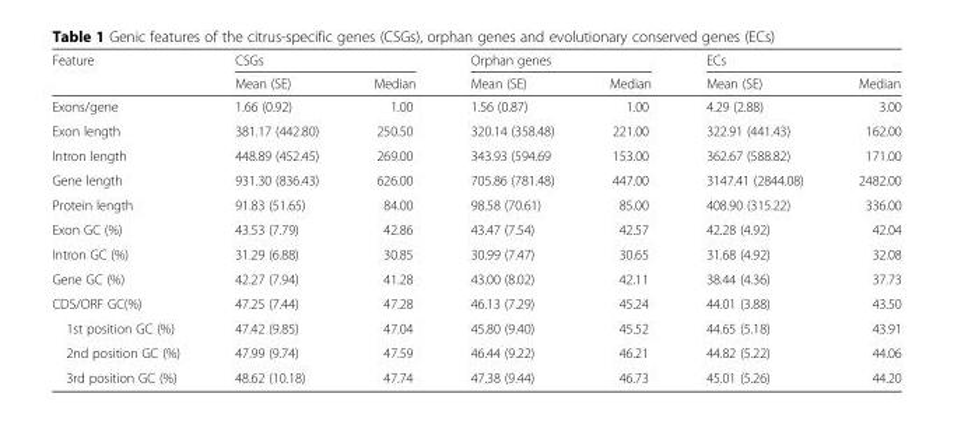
<table><thead><tr><td rowspan="2">Feature</td><td colspan="2">CSGs</td><td colspan="2">Orphan genes</td><td colspan="2">ECs</td></tr><tr><td>Mean (SE)</td><td>Median</td><td>Mean (SE)</td><td>Median</td><td>Mean (SE)</td><td>Median</td></tr></thead><tbody><tr><td>Exons/gene</td><td>1.66 (0.92)</td><td>1.00</td><td>1.56 (0.87)</td><td>1.00</td><td>4.29 (2.88)</td><td>3.00</td></tr><tr><td>Exon length</td><td>381.17 (442.80)</td><td>250.50</td><td>320.14 (358.48)</td><td>221.00</td><td>322.91 (441.43)</td><td>162.00</td></tr><tr><td>Intron length</td><td>448.89 (452.45)</td><td>269.00</td><td>343.93 (594.69</td><td>153.00</td><td>362.67 (588.82)</td><td>171.00</td></tr><tr><td>Gene length</td><td>931.30 (836.43)</td><td>626.00</td><td>705.86 (781.48)</td><td>447.00</td><td>3147.41 (2844.08)</td><td>2482.00</td></tr><tr><td>Protein length</td><td>91.83 (51.65)</td><td>84.00</td><td>98.58 (70.61)</td><td>85.00</td><td>408.90 (315.22)</td><td>336.00</td></tr><tr><td>Exon GC (%)</td><td>43.53 (7.79)</td><td>42.86</td><td>43.47 (7.54)</td><td>42.57</td><td>42.28 (4.92)</td><td>42.04</td></tr><tr><td>Intron GC (%)</td><td>31.29 (6.88)</td><td>30.85</td><td>30.99 (7.47)</td><td>30.65</td><td>31.68 (4.92)</td><td>32.08</td></tr><tr><td>Gene GC (%)</td><td>42.27 (7.94)</td><td>41.28</td><td>43.00 (8.02)</td><td>42.11</td><td>38.44 (4.36)</td><td>37.73</td></tr><tr><td>CDS/ORF GC(%)</td><td>47.25 (7.44)</td><td>47.28</td><td>46.13 (7.29)</td><td>45.24</td><td>44.01 (3.88)</td><td>43.50</td></tr><tr><td>1st position GC (%)</td><td>47.42 (9.85)</td><td>47.04</td><td>45.80 (9.40)</td><td>45.52</td><td>44.65 (5.18)</td><td>43.91</td></tr><tr><td>2nd position GC (%)</td><td>47.99 (9.74)</td><td>47.59</td><td>46.44 (9.22)</td><td>46.21</td><td>44.82 (5.22)</td><td>44.06</td></tr><tr><td>3rd position GC (%)</td><td>48.62 (10.18)</td><td>47.74</td><td>47.38 (9.44)</td><td>46.73</td><td>45.01 (5.26)</td><td>44.20</td></tr></tbody></table>